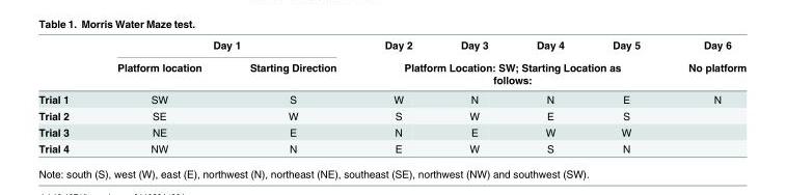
<table><thead><tr><td rowspan="2"></td><td colspan="2">Day 1</td><td>Day 2</td><td>Day 3</td><td>Day 4</td><td>Day 5</td><td rowspan="2">Day 6 No platform</td></tr><tr><td>Platform location</td><td>Starting Direction</td><td colspan="4">Platform Location: SW; Starting Location as follows:</td></tr></thead><tbody><tr><td>Trial 1</td><td>SW</td><td>S</td><td>W</td><td>N</td><td>N</td><td>E</td><td>N</td></tr><tr><td>Trial 2</td><td>SE</td><td>W</td><td>S</td><td>W</td><td>E</td><td>S</td><td></td></tr><tr><td>Trial 3</td><td>NE</td><td>E</td><td>N</td><td>E</td><td>W</td><td>W</td><td></td></tr><tr><td>Trial 4</td><td>NW</td><td>N</td><td>E</td><td>W</td><td>S</td><td>N</td><td></td></tr></tbody></table>